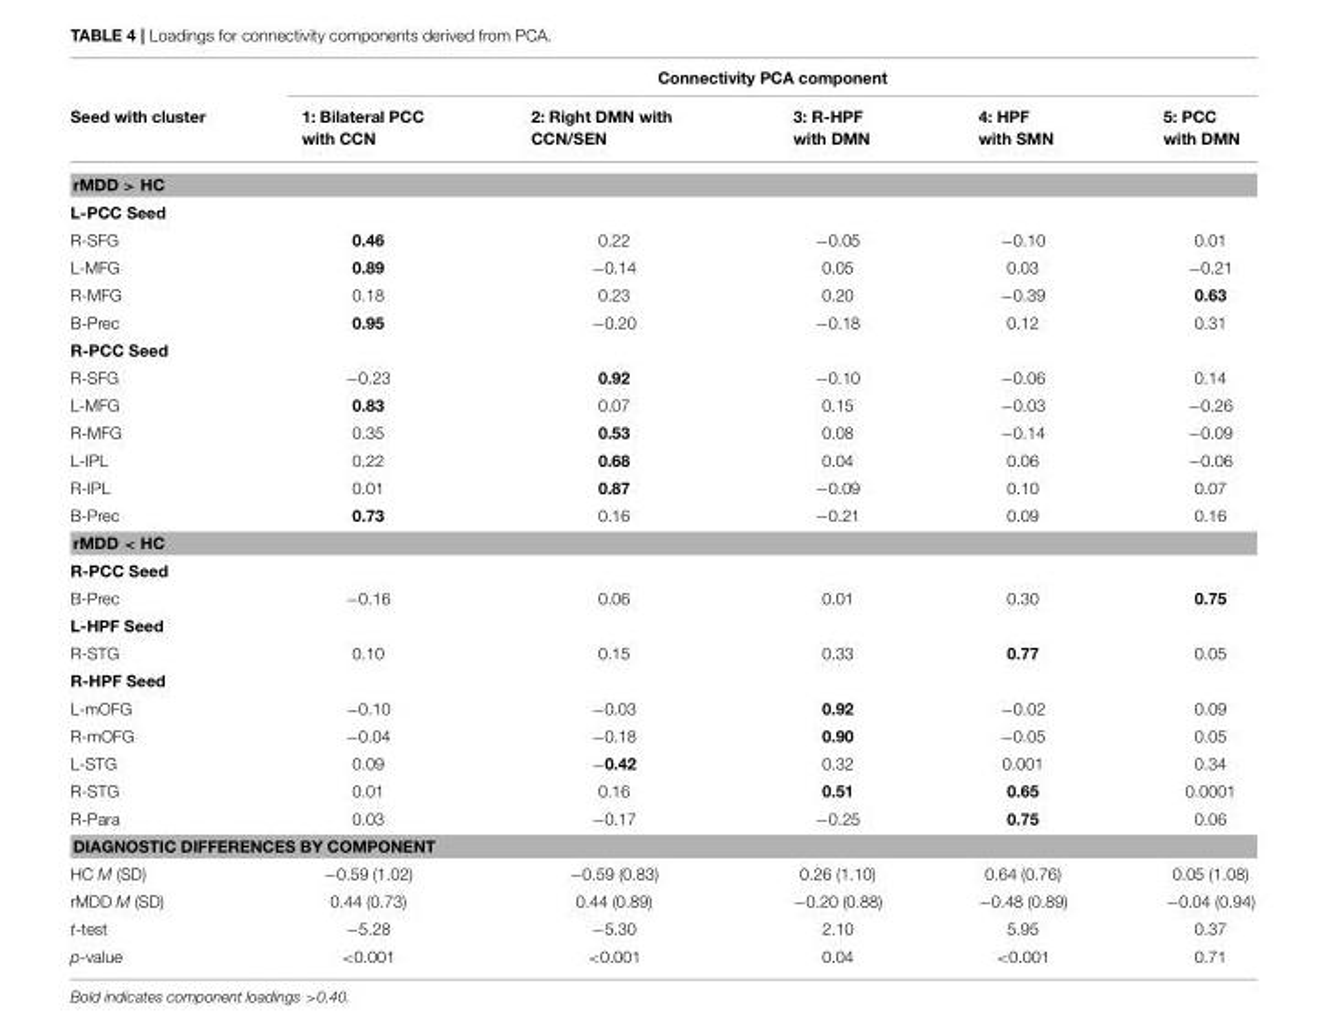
<table><thead><tr><td rowspan="2">Seed with cluster</td><td colspan="5">Connectivity PCA component</td></tr><tr><td>1: Bilateral PCC with CCN</td><td>2: Right DMN with CCN/SEN</td><td>3: R-HPF with DMN</td><td>4: HPF with SMN</td><td>5: PCC with DMN</td></tr></thead><tbody><tr><td colspan="6">rMDD &gt; HC</td></tr><tr><td colspan="6">L-PCC Seed</td></tr><tr><td>R-SFG</td><td>0.46</td><td>0.22</td><td>−0.05</td><td>−0.10</td><td>0.01</td></tr><tr><td>L-MFG</td><td>0.89</td><td>−0.14</td><td>0.05</td><td>0.03</td><td>−0.21</td></tr><tr><td>R-MFG</td><td>0.18</td><td>0.23</td><td>0.20</td><td>−0.39</td><td>0.63</td></tr><tr><td>B-Prec</td><td>0.95</td><td>−0.20</td><td>−0.18</td><td>0.12</td><td>0.31</td></tr><tr><td colspan="6">R-PCC Seed</td></tr><tr><td>R-SFG</td><td>−0.23</td><td>0.92</td><td>−0.10</td><td>−0.06</td><td>0.14</td></tr><tr><td>L-MFG</td><td>0.83</td><td>0.07</td><td>0.15</td><td>−0.03</td><td>−0.26</td></tr><tr><td>R-MFG</td><td>0.35</td><td>0.53</td><td>0.08</td><td>−0.14</td><td>−0.09</td></tr><tr><td>L-IPL</td><td>0.22</td><td>0.68</td><td>0.04</td><td>0.06</td><td>−0.06</td></tr><tr><td>R-IPL</td><td>0.01</td><td>0.87</td><td>−0.09</td><td>0.10</td><td>0.07</td></tr><tr><td>B-Prec</td><td>0.73</td><td>0.16</td><td>−0.21</td><td>0.09</td><td>0.16</td></tr><tr><td colspan="6">rMDD &lt; HC</td></tr><tr><td colspan="6">R-PCC Seed</td></tr><tr><td>B-Prec</td><td>−0.16</td><td>0.06</td><td>0.01</td><td>0.30</td><td>0.75</td></tr><tr><td colspan="6">L-HPF Seed</td></tr><tr><td>R-STG</td><td>0.10</td><td>0.15</td><td>0.33</td><td>0.77</td><td>0.05</td></tr><tr><td colspan="6">R-HPF Seed</td></tr><tr><td>L-mOFG</td><td>−0.10</td><td>−0.03</td><td>0.92</td><td>−0.02</td><td>0.09</td></tr><tr><td>R-mOFG</td><td>−0.04</td><td>−0.18</td><td>0.90</td><td>−0.05</td><td>0.05</td></tr><tr><td>L-STG</td><td>0.09</td><td>−0.42</td><td>0.32</td><td>0.001</td><td>0.34</td></tr><tr><td>R-STG</td><td>0.01</td><td>0.16</td><td>0.51</td><td>0.65</td><td>0.0001</td></tr><tr><td>R-Para</td><td>0.03</td><td>−0.17</td><td>−0.25</td><td>0.75</td><td>0.06</td></tr><tr><td colspan="6">DIAGNOSTIC DIFFERENCES BY COMPONENT</td></tr><tr><td>HC M (SD)</td><td>−0.59 (1.02)</td><td>−0.59 (0.83)</td><td>0.26 (1.10)</td><td>0.64 (0.76)</td><td>0.05 (1.08)</td></tr><tr><td>rMDD M (SD)</td><td>0.44 (0.73)</td><td>0.44 (0.89)</td><td>−0.20 (0.88)</td><td>−0.48 (0.89)</td><td>−0.04 (0.94)</td></tr><tr><td>t-test</td><td>−5.28</td><td>−5.30</td><td>2.10</td><td>5.95</td><td>0.37</td></tr><tr><td>p-value</td><td>&lt;0.001</td><td>&lt;0.001</td><td>0.04</td><td>&lt;0.001</td><td>0.71</td></tr></tbody></table>